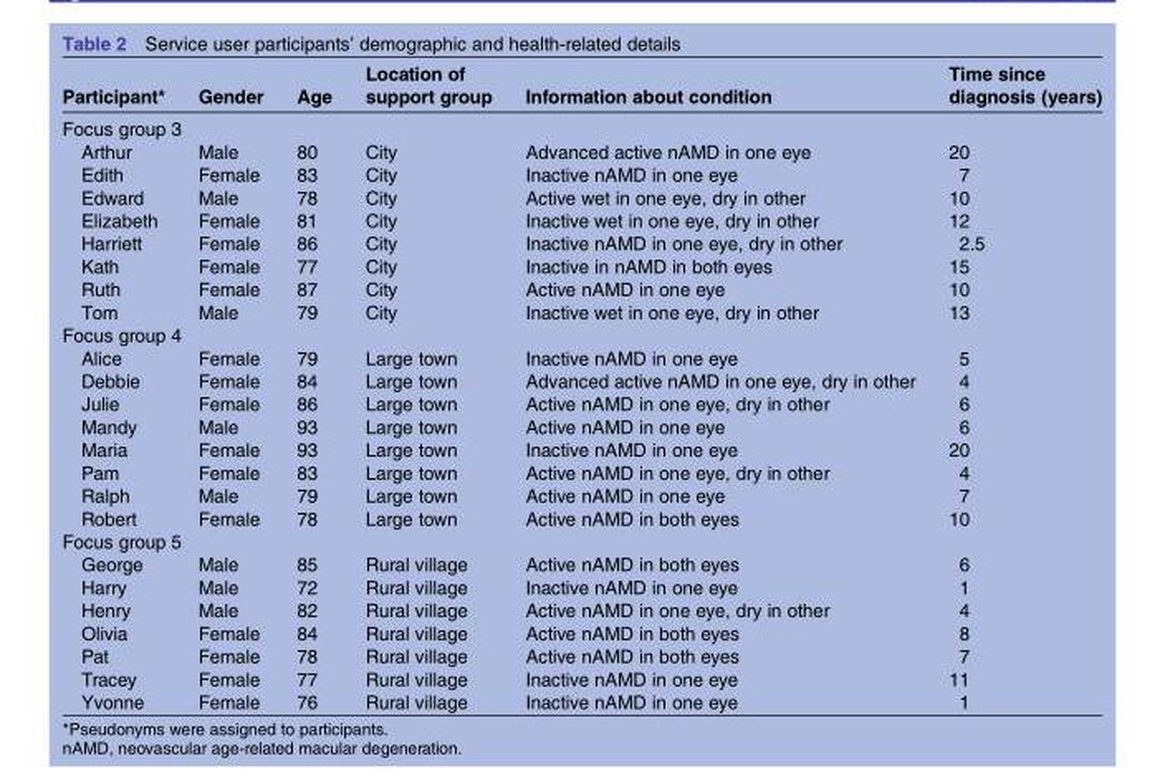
<table><thead><tr><td>Participant*</td><td>Gender</td><td>Age</td><td>Location of support group</td><td>Information about condition</td><td>Time since diagnosis (years)</td></tr></thead><tbody><tr><td colspan="6">Focus group 3</td></tr><tr><td>Arthur</td><td>Male</td><td>80</td><td>City</td><td>Advanced active nAMD in one eye</td><td>20</td></tr><tr><td>Edith</td><td>Female</td><td>83</td><td>City</td><td>Inactive nAMD in one eye</td><td>7</td></tr><tr><td>Edward</td><td>Male</td><td>78</td><td>City</td><td>Active wet in one eye, dry in other</td><td>10</td></tr><tr><td>Elizabeth</td><td>Female</td><td>81</td><td>City</td><td>Inactive wet in one eye, dry in other</td><td>12</td></tr><tr><td>Harriett</td><td>Female</td><td>86</td><td>City</td><td>Inactive nAMD in one eye, dry in other</td><td>2.5</td></tr><tr><td>Kath</td><td>Female</td><td>77</td><td>City</td><td>Inactive in nAMD in both eyes</td><td>15</td></tr><tr><td>Ruth</td><td>Female</td><td>87</td><td>City</td><td>Active nAMD in one eye</td><td>10</td></tr><tr><td>Tom</td><td>Male</td><td>79</td><td>City</td><td>Inactive wet in one eye, dry in other</td><td>13</td></tr><tr><td colspan="6">Focus group 4</td></tr><tr><td>Alice</td><td>Female</td><td>79</td><td>Large town</td><td>Inactive nAMD in one eye</td><td>5</td></tr><tr><td>Debbie</td><td>Female</td><td>84</td><td>Large town</td><td>Advanced active nAMD in one eye, dry in other</td><td>4</td></tr><tr><td>Julie</td><td>Female</td><td>86</td><td>Large town</td><td>Active nAMD in one eye, dry in other</td><td>6</td></tr><tr><td>Mandy</td><td>Male</td><td>93</td><td>Large town</td><td>Active nAMD in one eye</td><td>6</td></tr><tr><td>Maria</td><td>Female</td><td>93</td><td>Large town</td><td>Inactive nAMD in one eye</td><td>20</td></tr><tr><td>Pam</td><td>Female</td><td>83</td><td>Large town</td><td>Active nAMD in one eye, dry in other</td><td>4</td></tr><tr><td>Ralph</td><td>Male</td><td>79</td><td>Large town</td><td>Active nAMD in one eye</td><td>7</td></tr><tr><td>Robert</td><td>Female</td><td>78</td><td>Large town</td><td>Active nAMD in both eyes</td><td>10</td></tr><tr><td colspan="6">Focus group 5</td></tr><tr><td>George</td><td>Male</td><td>85</td><td>Rural village</td><td>Active nAMD in both eyes</td><td>6</td></tr><tr><td>Harry</td><td>Male</td><td>72</td><td>Rural village</td><td>Inactive nAMD in one eye</td><td>1</td></tr><tr><td>Henry</td><td>Male</td><td>82</td><td>Rural village</td><td>Active nAMD in one eye, dry in other</td><td>4</td></tr><tr><td>Olivia</td><td>Female</td><td>84</td><td>Rural village</td><td>Active nAMD in both eyes</td><td>8</td></tr><tr><td>Pat</td><td>Female</td><td>78</td><td>Rural village</td><td>Active nAMD in both eyes</td><td>7</td></tr><tr><td>Tracey</td><td>Female</td><td>77</td><td>Rural village</td><td>Inactive nAMD in one eye</td><td>11</td></tr><tr><td>Yvonne</td><td>Female</td><td>76</td><td>Rural village</td><td>Inactive nAMD in one eye</td><td>1</td></tr></tbody></table>